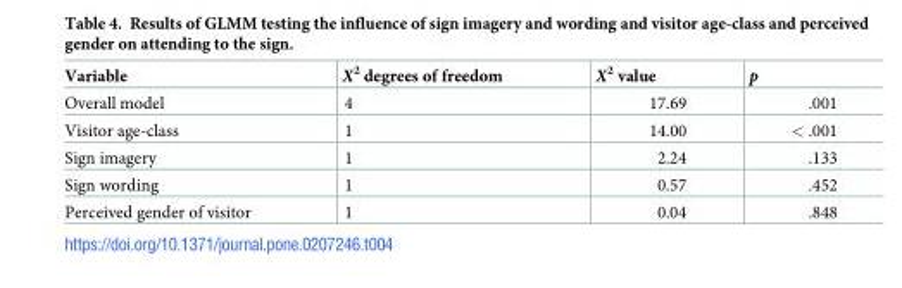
<table><thead><tr><td>Variable</td><td>X<sup>2</sup> degrees of freedom</td><td>X<sup>2</sup> value</td><td>p</td></tr></thead><tbody><tr><td>Overall model</td><td>4</td><td>17.69</td><td>.001</td></tr><tr><td>Visitor age-class</td><td>1</td><td>14.00</td><td>&lt; .001</td></tr><tr><td>Sign imagery</td><td>1</td><td>2.24</td><td>.133</td></tr><tr><td>Sign wording</td><td>1</td><td>0.57</td><td>.452</td></tr><tr><td>Perceived gender of visitor</td><td>1</td><td>0.04</td><td>.848</td></tr></tbody></table>